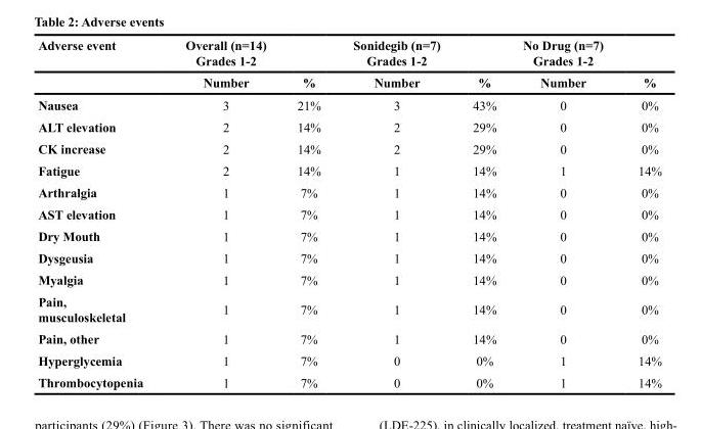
<table><thead><tr><td rowspan="2">Adverse event</td><td rowspan="2">Overall (n=14) Grades 1-2 Number</td><td rowspan="2">%</td><td rowspan="2">Sonidegib (n=7) Grades 1-2 Number</td><td rowspan="2">%</td><td rowspan="2">No Drug (n=7) Grades 1-2 Number</td><td rowspan="2">%</td></tr><tr></tr></thead><tbody><tr><td>Nausea</td><td>3</td><td>21%</td><td>3</td><td>43%</td><td>0</td><td>0%</td></tr><tr><td>ALT elevation</td><td>2</td><td>14%</td><td>2</td><td>29%</td><td>0</td><td>0%</td></tr><tr><td>CK increase</td><td>2</td><td>14%</td><td>2</td><td>29%</td><td>0</td><td>0%</td></tr><tr><td>Fatigue</td><td>2</td><td>14%</td><td>1</td><td>14%</td><td>1</td><td>14%</td></tr><tr><td>Arthralgia</td><td>1</td><td>7%</td><td>1</td><td>14%</td><td>0</td><td>0%</td></tr><tr><td>AST elevation</td><td>1</td><td>7%</td><td>1</td><td>14%</td><td>0</td><td>0%</td></tr><tr><td>Dry Mouth</td><td>1</td><td>7%</td><td>1</td><td>14%</td><td>0</td><td>0%</td></tr><tr><td>Dysgeusia</td><td>1</td><td>7%</td><td>1</td><td>14%</td><td>0</td><td>0%</td></tr><tr><td>Myalgia</td><td>1</td><td>7%</td><td>1</td><td>14%</td><td>0</td><td>0%</td></tr><tr><td>Pain, musculoskeletal</td><td>1</td><td>7%</td><td>1</td><td>14%</td><td>0</td><td>0%</td></tr><tr><td>Pain, other</td><td>1</td><td>7%</td><td>1</td><td>14%</td><td>0</td><td>0%</td></tr><tr><td>Hyperglycemia</td><td>1</td><td>7%</td><td>0</td><td>0%</td><td>1</td><td>14%</td></tr><tr><td>Thrombocytopenia</td><td>1</td><td>7%</td><td>0</td><td>0%</td><td>1</td><td>14%</td></tr></tbody></table>